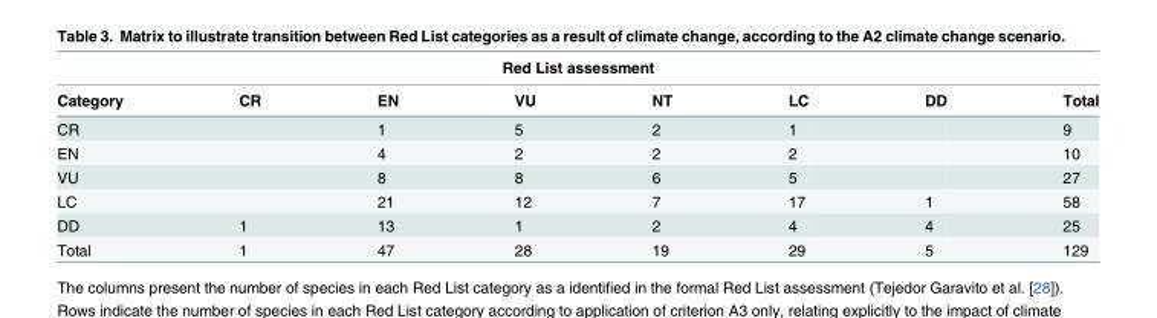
<table><thead><tr><td colspan="8">Red List assessment</td></tr><tr><td>Category</td><td>CR</td><td>EN</td><td>VU</td><td>NT</td><td>LC</td><td>DD</td><td>Total</td></tr></thead><tbody><tr><td>CR</td><td></td><td>1</td><td>5</td><td>2</td><td>1</td><td></td><td>9</td></tr><tr><td>EN</td><td></td><td>4</td><td>2</td><td>2</td><td>2</td><td></td><td>10</td></tr><tr><td>VU</td><td></td><td>8</td><td>8</td><td>6</td><td>5</td><td></td><td>27</td></tr><tr><td>LC</td><td></td><td>21</td><td>12</td><td>7</td><td>17</td><td>1</td><td>58</td></tr><tr><td>DD</td><td>1</td><td>13</td><td>1</td><td>2</td><td>4</td><td>4</td><td>25</td></tr><tr><td>Total</td><td>1</td><td>47</td><td>28</td><td>19</td><td>29</td><td>5</td><td>129</td></tr></tbody></table>